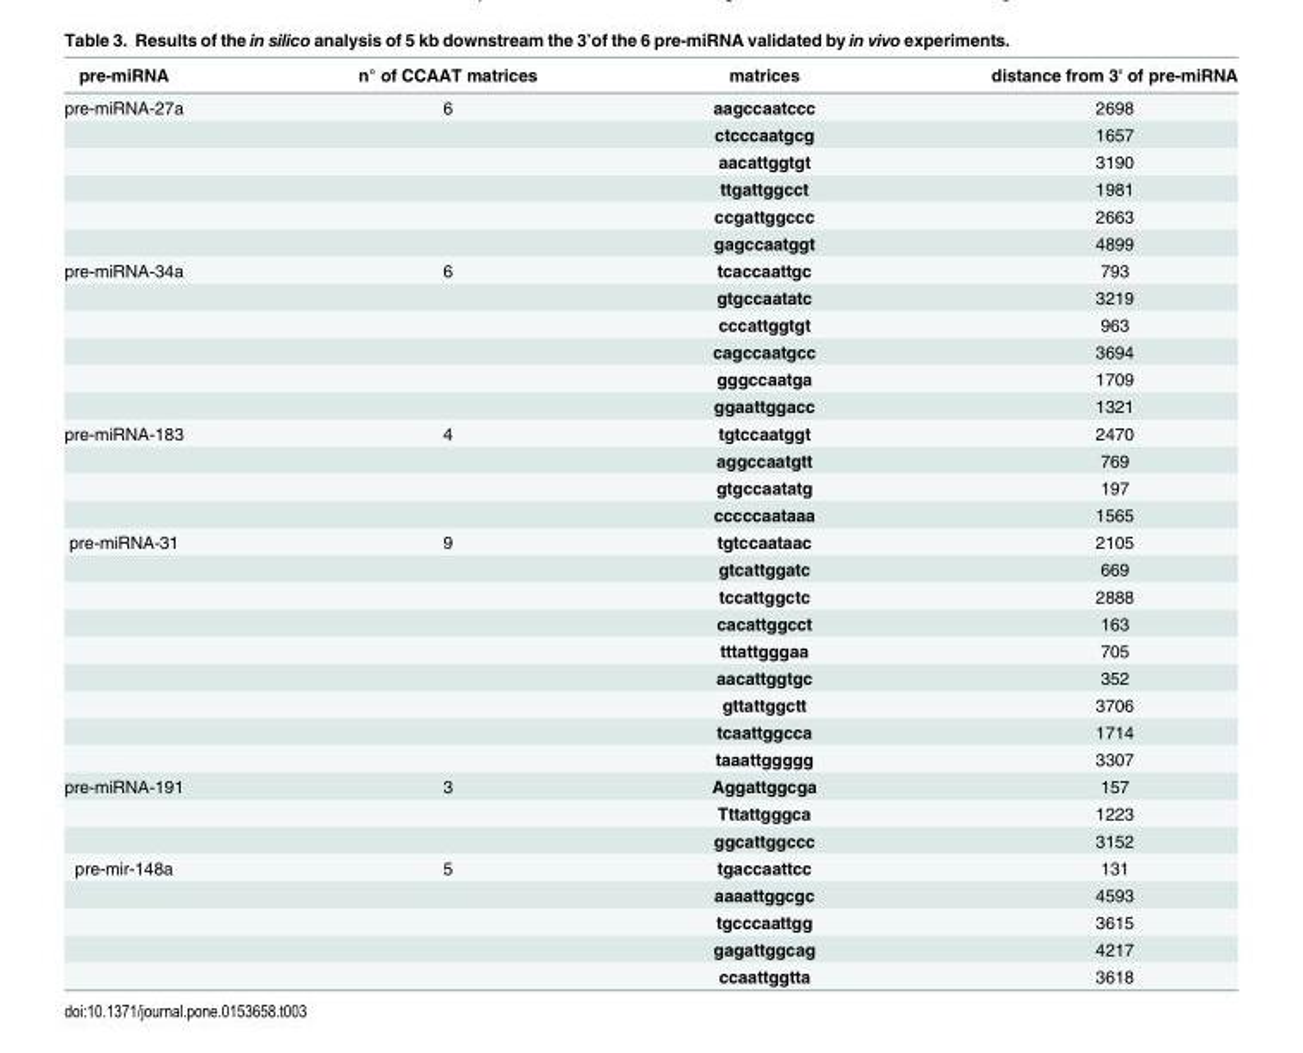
<table><thead><tr><td>pre-miRNA</td><td>n° of CCAAT matrices</td><td>matrices</td><td>distance from 3&#x27; of pre-miRNA</td></tr></thead><tbody><tr><td rowspan="6">pre-miRNA-27a</td><td>6</td><td>aagccaatccc</td><td>2698</td></tr><tr><td></td><td>ctcccaatgcg</td><td>1657</td></tr><tr><td></td><td>aacattggtgt</td><td>3190</td></tr><tr><td></td><td>ttgattggcct</td><td>1981</td></tr><tr><td></td><td>ccgattggccc</td><td>2663</td></tr><tr><td></td><td>gagccaatggt</td><td>4899</td></tr><tr><td rowspan="6">pre-miRNA-34a</td><td>6</td><td>tcaccaattgc</td><td>793</td></tr><tr><td></td><td>gtgccaatatc</td><td>3219</td></tr><tr><td></td><td>cccattggtgt</td><td>963</td></tr><tr><td></td><td>cagccaatgcc</td><td>3694</td></tr><tr><td></td><td>gggccaatga</td><td>1709</td></tr><tr><td></td><td>ggaattggacc</td><td>1321</td></tr><tr><td rowspan="4">pre-miRNA-183</td><td>4</td><td>tgtccaatggt</td><td>2470</td></tr><tr><td></td><td>aggccaatgtt</td><td>769</td></tr><tr><td></td><td>gtgccaatatg</td><td>197</td></tr><tr><td></td><td>cccccaataaa</td><td>1565</td></tr><tr><td rowspan="9">pre-miRNA-31</td><td>9</td><td>tgtccaataac</td><td>2105</td></tr><tr><td></td><td>gtcattggatc</td><td>669</td></tr><tr><td></td><td>tccattggctc</td><td>2888</td></tr><tr><td></td><td>cacattggcct</td><td>163</td></tr><tr><td></td><td>tttattgggaa</td><td>705</td></tr><tr><td></td><td>aacattggtgc</td><td>352</td></tr><tr><td></td><td>gttattggctt</td><td>3706</td></tr><tr><td></td><td>tcaattggcca</td><td>1714</td></tr><tr><td></td><td>taaattggggg</td><td>3307</td></tr><tr><td rowspan="3">pre-miRNA-191</td><td>3</td><td>Aggattggcga</td><td>157</td></tr><tr><td></td><td>Tttattgggca</td><td>1223</td></tr><tr><td></td><td>ggcattggccc</td><td>3152</td></tr><tr><td rowspan="5">pre-mir-148a</td><td>5</td><td>tgaccaattcc</td><td>131</td></tr><tr><td></td><td>aaaattggcgc</td><td>4593</td></tr><tr><td></td><td>tgcccaattgg</td><td>3615</td></tr><tr><td></td><td>gagattggcag</td><td>4217</td></tr><tr><td></td><td>ccaattggtta</td><td>3618</td></tr></tbody></table>